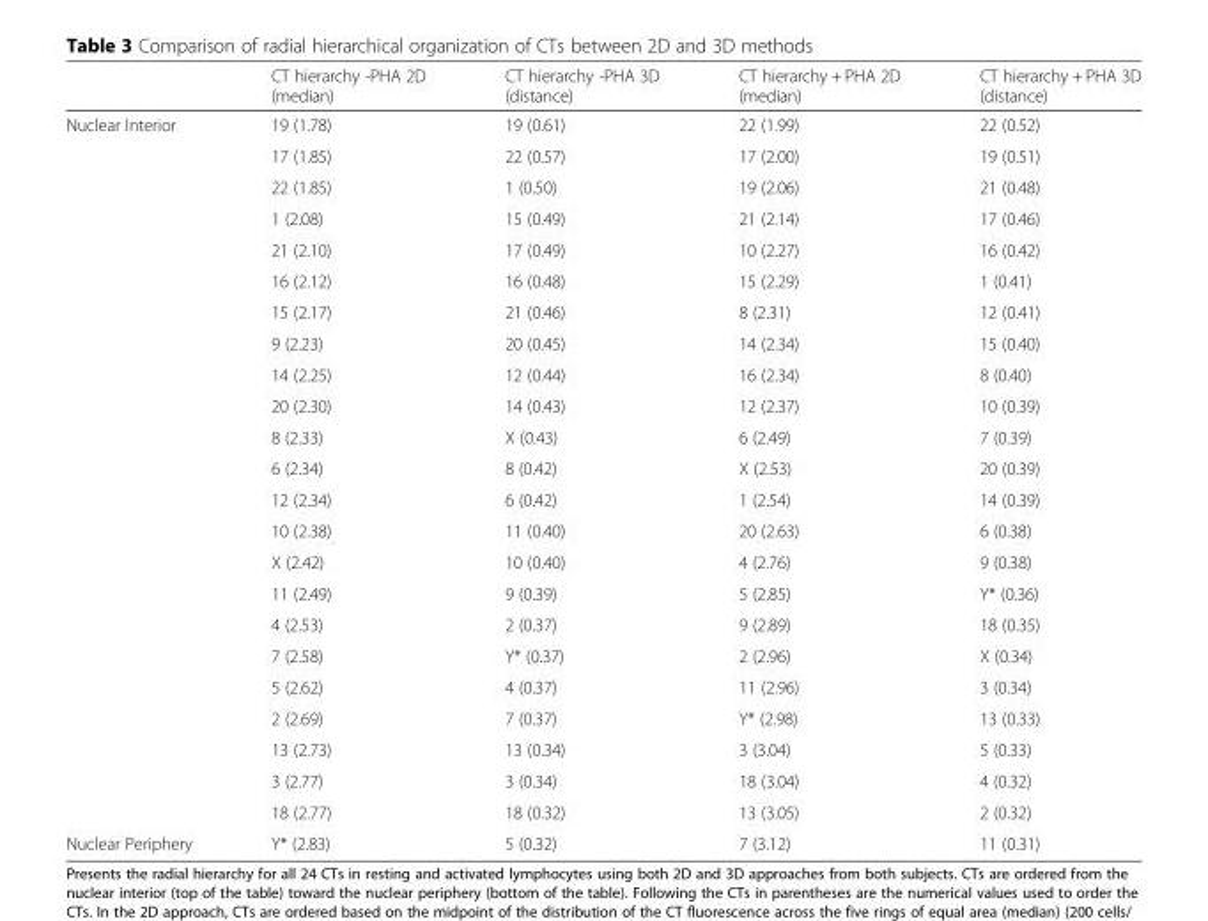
<table><thead><tr><td></td><td>CT hierarchy -PHA 2D (median)</td><td>CT hierarchy -PHA 3D (distance)</td><td>CT hierarchy + PHA 2D (median)</td><td>CT hierarchy + PHA 3D (distance)</td></tr></thead><tbody><tr><td rowspan="23">Nuclear Interior</td><td>19 (1.78)</td><td>19 (0.61)</td><td>22 (1.99)</td><td>22 (0.52)</td></tr><tr><td>17 (1.85)</td><td>22 (0.57)</td><td>17 (2.00)</td><td>19 (0.51)</td></tr><tr><td>22 (1.85)</td><td>1 (0.50)</td><td>19 (2.06)</td><td>21 (0.48)</td></tr><tr><td>1 (2.08)</td><td>15 (0.49)</td><td>21 (2.14)</td><td>17 (0.46)</td></tr><tr><td>21 (2.10)</td><td>17 (0.49)</td><td>10 (2.27)</td><td>16 (0.42)</td></tr><tr><td>16 (2.12)</td><td>16 (0.48)</td><td>15 (2.29)</td><td>1 (0.41)</td></tr><tr><td>15 (2.17)</td><td>21 (0.46)</td><td>8 (2.31)</td><td>12 (0.41)</td></tr><tr><td>9 (2.23)</td><td>20 (0.45)</td><td>14 (2.34)</td><td>15 (0.40)</td></tr><tr><td>14 (2.25)</td><td>12 (0.44)</td><td>16 (2.34)</td><td>8 (0.40)</td></tr><tr><td>20 (2.30)</td><td>14 (0.43)</td><td>12 (2.37)</td><td>10 (0.39)</td></tr><tr><td>8 (2.33)</td><td>X (0.43)</td><td>6 (2.49)</td><td>7 (0.39)</td></tr><tr><td>6 (2.34)</td><td>8 (0.42)</td><td>X (2.53)</td><td>20 (0.39)</td></tr><tr><td>12 (2.34)</td><td>6 (0.42)</td><td>1 (2.54)</td><td>14 (0.39)</td></tr><tr><td>10 (2.38)</td><td>11 (0.40)</td><td>20 (2.63)</td><td>6 (0.38)</td></tr><tr><td>X (2.42)</td><td>10 (0.40)</td><td>4 (2.76)</td><td>9 (0.38)</td></tr><tr><td>11 (2.49)</td><td>9 (0.39)</td><td>5 (2.85)</td><td>Y* (0.36)</td></tr><tr><td>4 (2.53)</td><td>2 (0.37)</td><td>9 (2.89)</td><td>18 (0.35)</td></tr><tr><td>7 (2.58)</td><td>Y* (0.37)</td><td>2 (2.96)</td><td>X (0.34)</td></tr><tr><td>5 (2.62)</td><td>4 (0.37)</td><td>11 (2.96)</td><td>3 (0.34)</td></tr><tr><td>2 (2.69)</td><td>7 (0.37)</td><td>Y* (2.98)</td><td>13 (0.33)</td></tr><tr><td>13 (2.73)</td><td>13 (0.34)</td><td>3 (3.04)</td><td>5 (0.33)</td></tr><tr><td>3 (2.77)</td><td>3 (0.34)</td><td>18 (3.04)</td><td>4 (0.32)</td></tr><tr><td>18 (2.77)</td><td>18 (0.32)</td><td>13 (3.05)</td><td>2 (0.32)</td></tr><tr><td>Nuclear Periphery</td><td>Y* (2.83)</td><td>5 (0.32)</td><td>7 (3.12)</td><td>11 (0.31)</td></tr></tbody></table>